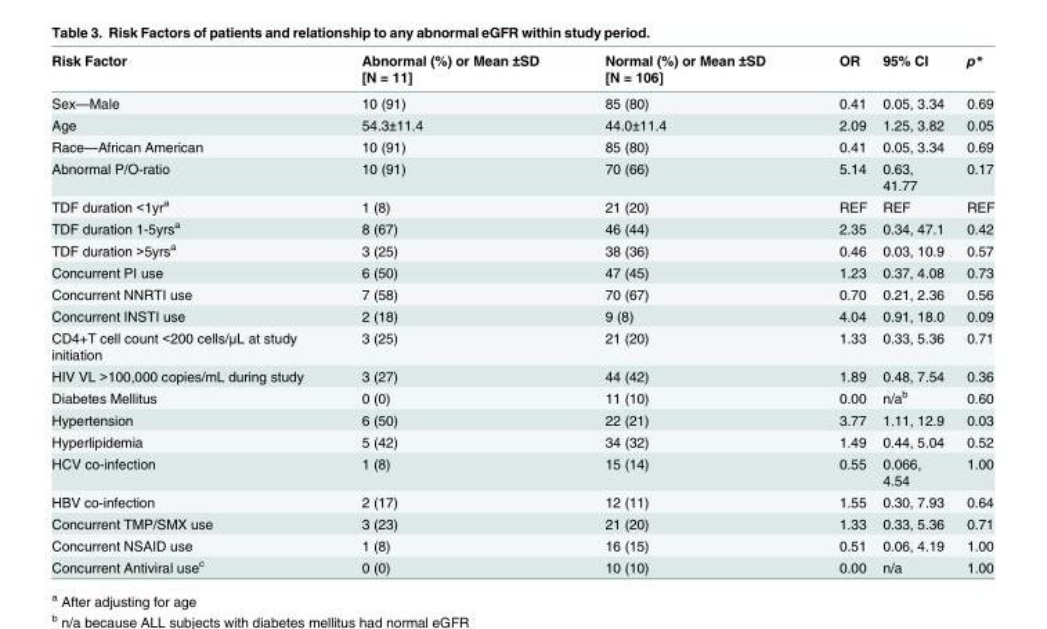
<table><thead><tr><td>Risk Factor</td><td>Abnormal (%) or Mean ±SD [N = 11]</td><td>Normal (%) or Mean ±SD [N = 106]</td><td>OR</td><td>95% CI</td><td>p*</td></tr></thead><tbody><tr><td>Sex—Male</td><td>10 (91)</td><td>85 (80)</td><td>0.41</td><td>0.05, 3.34</td><td>0.69</td></tr><tr><td>Age</td><td>54.3±11.4</td><td>44.0±11.4</td><td>2.09</td><td>1.25, 3.82</td><td>0.05</td></tr><tr><td>Race—African American</td><td>10 (91)</td><td>85 (80)</td><td>0.41</td><td>0.05, 3.34</td><td>0.69</td></tr><tr><td>Abnormal P/O-ratio</td><td>10 (91)</td><td>70 (66)</td><td>5.14</td><td>0.63, 41.77</td><td>0.17</td></tr><tr><td>TDF duration &lt;1yr<sup>a</sup></td><td>1 (8)</td><td>21 (20)</td><td>REF</td><td>REF</td><td>REF</td></tr><tr><td>TDF duration 1-5yrs<sup>a</sup></td><td>8 (67)</td><td>46 (44)</td><td>2.35</td><td>0.34, 47.1</td><td>0.42</td></tr><tr><td>TDF duration &gt;5yrs<sup>a</sup></td><td>3 (25)</td><td>38 (36)</td><td>0.46</td><td>0.03, 10.9</td><td>0.57</td></tr><tr><td>Concurrent PI use</td><td>6 (50)</td><td>47 (45)</td><td>1.23</td><td>0.37, 4.08</td><td>0.73</td></tr><tr><td>Concurrent NNRTI use</td><td>7 (58)</td><td>70 (67)</td><td>0.70</td><td>0.21, 2.36</td><td>0.56</td></tr><tr><td>Concurrent INSTI use</td><td>2 (18)</td><td>9 (8)</td><td>4.04</td><td>0.91, 18.0</td><td>0.09</td></tr><tr><td>CD4+T cell count &lt;200 cells/μL at study initiation</td><td>3 (25)</td><td>21 (20)</td><td>1.33</td><td>0.33, 5.36</td><td>0.71</td></tr><tr><td>HIV VL &gt;100,000 copies/mL during study</td><td>3 (27)</td><td>44 (42)</td><td>1.89</td><td>0.48, 7.54</td><td>0.36</td></tr><tr><td>Diabetes Mellitus</td><td>0 (0)</td><td>11 (10)</td><td>0.00</td><td>n/a<sup>b</sup></td><td>0.60</td></tr><tr><td>Hypertension</td><td>6 (50)</td><td>22 (21)</td><td>3.77</td><td>1.11, 12.9</td><td>0.03</td></tr><tr><td>Hyperlipidemia</td><td>5 (42)</td><td>34 (32)</td><td>1.49</td><td>0.44, 5.04</td><td>0.52</td></tr><tr><td>HCV co-infection</td><td>1 (8)</td><td>15 (14)</td><td>0.55</td><td>0.066, 4.54</td><td>1.00</td></tr><tr><td>HBV co-infection</td><td>2 (17)</td><td>12 (11)</td><td>1.55</td><td>0.30, 7.93</td><td>0.64</td></tr><tr><td>Concurrent TMP/SMX use</td><td>3 (23)</td><td>21 (20)</td><td>1.33</td><td>0.33, 5.36</td><td>0.71</td></tr><tr><td>Concurrent NSAID use</td><td>1 (8)</td><td>16 (15)</td><td>0.51</td><td>0.06, 4.19</td><td>1.00</td></tr><tr><td>Concurrent Antiviral use<sup>c</sup></td><td>0 (0)</td><td>10 (10)</td><td>0.00</td><td>n/a</td><td>1.00</td></tr></tbody></table>